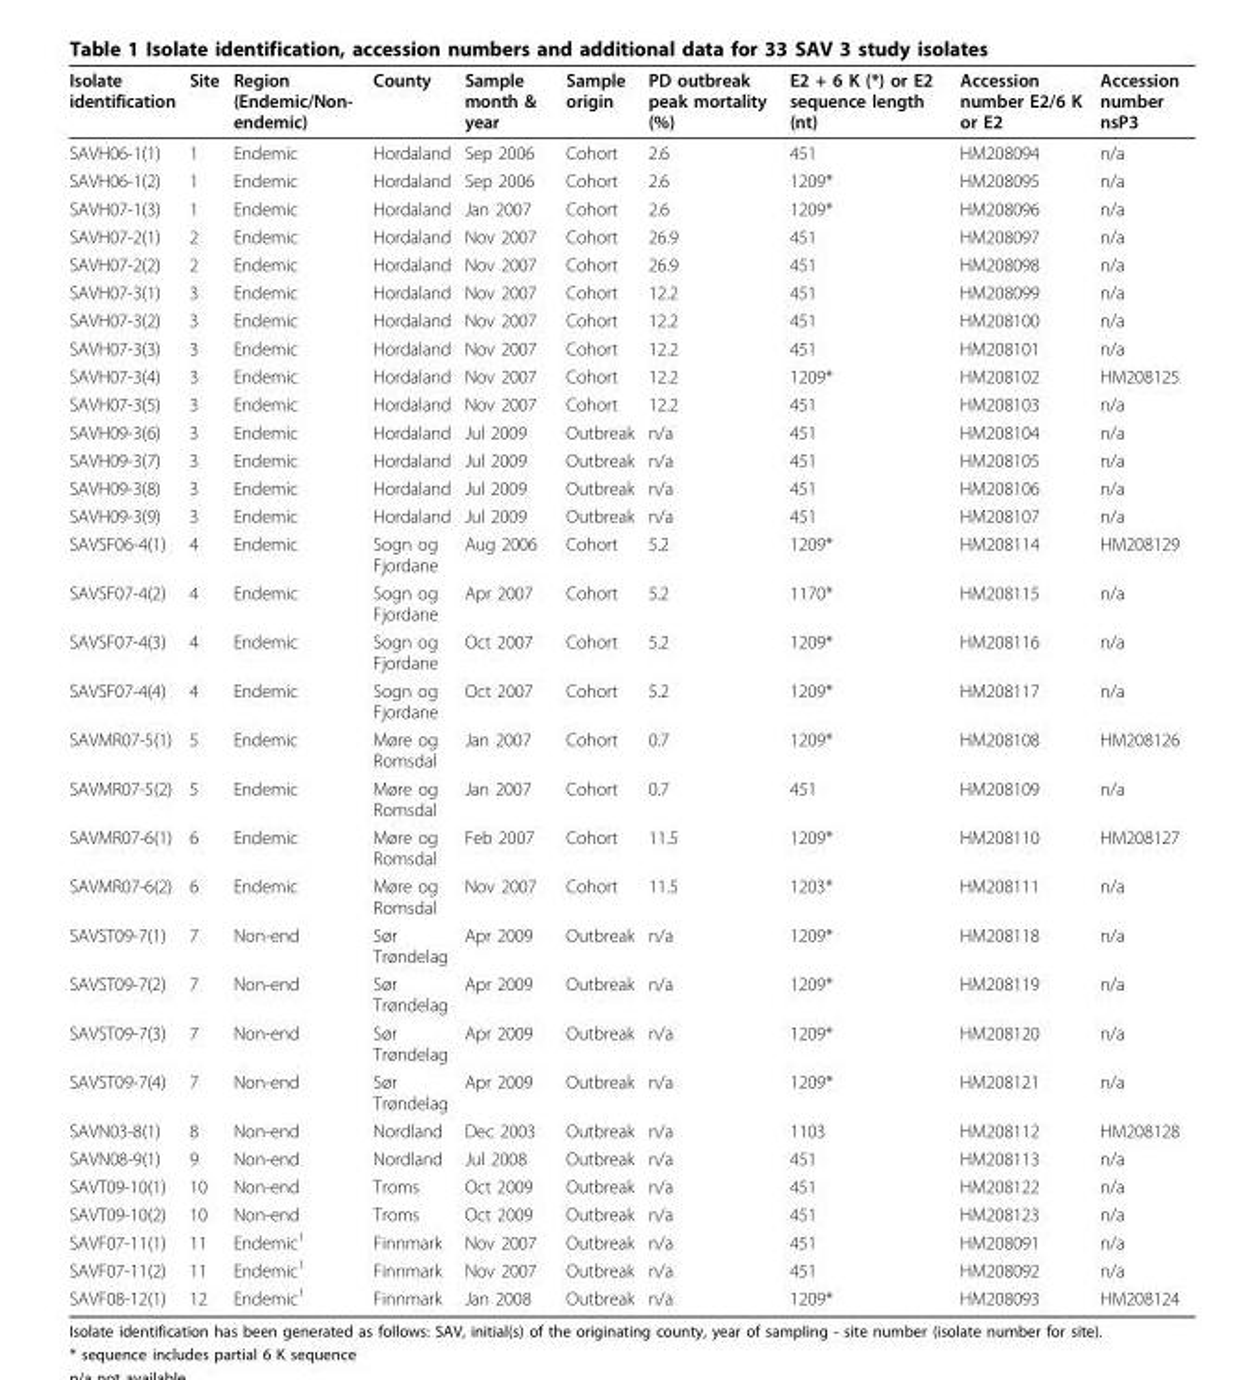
<table><thead><tr><td>Isolate identification</td><td>Site</td><td>Region (Endemic/Non- endemic)</td><td>County</td><td>Sample month &amp; year</td><td>Sample origin</td><td>PD outbreak peak mortality (%)</td><td>E2 + 6 K (*) or E2 sequence length (nt)</td><td>Accession number E2/6 K or E2</td><td>Accession number nsP3</td></tr></thead><tbody><tr><td>SAVH06-1(1)</td><td>1</td><td>Endemic</td><td>Hordaland</td><td>Sep 2006</td><td>Cohort</td><td>2.6</td><td>451</td><td>HM208094</td><td>n/a</td></tr><tr><td>SAVH06-1(2)</td><td>1</td><td>Endemic</td><td>Hordaland</td><td>Sep 2006</td><td>Cohort</td><td>2.6</td><td>1209*</td><td>HM208095</td><td>n/a</td></tr><tr><td>SAVH07-1(3)</td><td>1</td><td>Endemic</td><td>Hordaland</td><td>Jan 2007</td><td>Cohort</td><td>2.6</td><td>1209*</td><td>HM208096</td><td>n/a</td></tr><tr><td>SAVH07-2(1)</td><td>2</td><td>Endemic</td><td>Hordaland</td><td>Nov 2007</td><td>Cohort</td><td>26.9</td><td>451</td><td>HM208097</td><td>n/a</td></tr><tr><td>SAVH07-2(2)</td><td>2</td><td>Endemic</td><td>Hordaland</td><td>Nov 2007</td><td>Cohort</td><td>26.9</td><td>451</td><td>HM208098</td><td>n/a</td></tr><tr><td>SAVH07-3(1)</td><td>3</td><td>Endemic</td><td>Hordaland</td><td>Nov 2007</td><td>Cohort</td><td>12.2</td><td>451</td><td>HM208099</td><td>n/a</td></tr><tr><td>SAVH07-3(2)</td><td>3</td><td>Endemic</td><td>Hordaland</td><td>Nov 2007</td><td>Cohort</td><td>12.2</td><td>451</td><td>HM208100</td><td>n/a</td></tr><tr><td>SAVH07-3(3)</td><td>3</td><td>Endemic</td><td>Hordaland</td><td>Nov 2007</td><td>Cohort</td><td>12.2</td><td>451</td><td>HM208101</td><td>n/a</td></tr><tr><td>SAVH07-3(4)</td><td>3</td><td>Endemic</td><td>Hordaland</td><td>Nov 2007</td><td>Cohort</td><td>12.2</td><td>1209*</td><td>HM208102</td><td>HM208125</td></tr><tr><td>SAVH07-3(5)</td><td>3</td><td>Endemic</td><td>Hordaland</td><td>Nov 2007</td><td>Cohort</td><td>12.2</td><td>451</td><td>HM208103</td><td>n/a</td></tr><tr><td>SAVH09-3(6)</td><td>3</td><td>Endemic</td><td>Hordaland</td><td>Jul 2009</td><td>Outbreak</td><td>n/a</td><td>451</td><td>HM208104</td><td>n/a</td></tr><tr><td>SAVH09-3(7)</td><td>3</td><td>Endemic</td><td>Hordaland</td><td>Jul 2009</td><td>Outbreak</td><td>n/a</td><td>451</td><td>HM208105</td><td>n/a</td></tr><tr><td>SAVH09-3(8)</td><td>3</td><td>Endemic</td><td>Hordaland</td><td>Jul 2009</td><td>Outbreak</td><td>n/a</td><td>451</td><td>HM208106</td><td>n/a</td></tr><tr><td>SAVH09-3(9)</td><td>3</td><td>Endemic</td><td>Hordaland</td><td>Jul 2009</td><td>Outbreak</td><td>n/a</td><td>451</td><td>HM208107</td><td>n/a</td></tr><tr><td>SAVSF06-4(1)</td><td>4</td><td>Endemic</td><td>Sogn og Fjordane</td><td>Aug 2006</td><td>Cohort</td><td>5.2</td><td>1209*</td><td>HM208114</td><td>HM208129</td></tr><tr><td>SAVSF07-4(2)</td><td>4</td><td>Endemic</td><td>Sogn og Fjordane</td><td>Apr 2007</td><td>Cohort</td><td>5.2</td><td>1170*</td><td>HM208115</td><td>n/a</td></tr><tr><td>SAVSF07-4(3)</td><td>4</td><td>Endemic</td><td>Sogn og Fjordane</td><td>Oct 2007</td><td>Cohort</td><td>5.2</td><td>1209*</td><td>HM208116</td><td>n/a</td></tr><tr><td>SAVSF07-4(4)</td><td>4</td><td>Endemic</td><td>Sogn og Fjordane</td><td>Oct 2007</td><td>Cohort</td><td>5.2</td><td>1209*</td><td>HM208117</td><td>n/a</td></tr><tr><td>SAVMR07-5(1)</td><td>5</td><td>Endemic</td><td>Møre og Romsdal</td><td>Jan 2007</td><td>Cohort</td><td>0.7</td><td>1209*</td><td>HM208108</td><td>HM208126</td></tr><tr><td>SAVMR07-5(2)</td><td>5</td><td>Endemic</td><td>Møre og Romsdal</td><td>Jan 2007</td><td>Cohort</td><td>0.7</td><td>451</td><td>HM208109</td><td>n/a</td></tr><tr><td>SAVMR07-6(1)</td><td>6</td><td>Endemic</td><td>Møre og Romsdal</td><td>Feb 2007</td><td>Cohort</td><td>11.5</td><td>1209*</td><td>HM208110</td><td>HM208127</td></tr><tr><td>SAVMR07-6(2)</td><td>6</td><td>Endemic</td><td>Møre og Romsdal</td><td>Nov 2007</td><td>Cohort</td><td>11.5</td><td>1203*</td><td>HM208111</td><td>n/a</td></tr><tr><td>SAVST09-7(1)</td><td>7</td><td>Non-end</td><td>Sør Trøndelag</td><td>Apr 2009</td><td>Outbreak</td><td>n/a</td><td>1209*</td><td>HM208118</td><td>n/a</td></tr><tr><td>SAVST09-7(2)</td><td>7</td><td>Non-end</td><td>Sør Trøndelag</td><td>Apr 2009</td><td>Outbreak</td><td>n/a</td><td>1209*</td><td>HM208119</td><td>n/a</td></tr><tr><td>SAVST09-7(3)</td><td>7</td><td>Non-end</td><td>Sør Trøndelag</td><td>Apr 2009</td><td>Outbreak</td><td>n/a</td><td>1209*</td><td>HM208120</td><td>n/a</td></tr><tr><td>SAVST09-7(4)</td><td>7</td><td>Non-end</td><td>Sør Trøndelag</td><td>Apr 2009</td><td>Outbreak</td><td>n/a</td><td>1209*</td><td>HM208121</td><td>n/a</td></tr><tr><td>SAVN03-8(1)</td><td>8</td><td>Non-end</td><td>Nordland</td><td>Dec 2003</td><td>Outbreak</td><td>n/a</td><td>1103</td><td>HM208112</td><td>HM208128</td></tr><tr><td>SAVN08-9(1)</td><td>9</td><td>Non-end</td><td>Nordland</td><td>Jul 2008</td><td>Outbreak</td><td>n/a</td><td>451</td><td>HM208113</td><td>n/a</td></tr><tr><td>SAVT09-10(1)</td><td>10</td><td>Non-end</td><td>Troms</td><td>Oct 2009</td><td>Outbreak</td><td>n/a</td><td>451</td><td>HM208122</td><td>n/a</td></tr><tr><td>SAVT09-10(2)</td><td>10</td><td>Non-end</td><td>Troms</td><td>Oct 2009</td><td>Outbreak</td><td>n/a</td><td>451</td><td>HM208123</td><td>n/a</td></tr><tr><td>SAVF07-11(1)</td><td>11</td><td>Endemic<sup>1</sup></td><td>Finnmark</td><td>Nov 2007</td><td>Outbreak</td><td>n/a</td><td>451</td><td>HM208091</td><td>n/a</td></tr><tr><td>SAVF07-11(2)</td><td>11</td><td>Endemic<sup>1</sup></td><td>Finnmark</td><td>Nov 2007</td><td>Outbreak</td><td>n/a</td><td>451</td><td>HM208092</td><td>n/a</td></tr><tr><td>SAVF08-12(1)</td><td>12</td><td>Endemic<sup>1</sup></td><td>Finnmark</td><td>Jan 2008</td><td>Outbreak</td><td>n/a</td><td>1209*</td><td>HM208093</td><td>HM208124</td></tr></tbody></table>